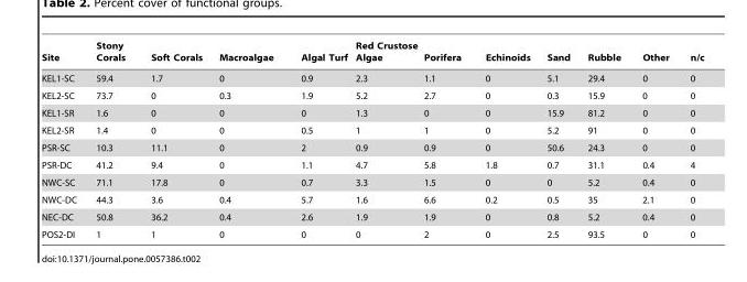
<table><thead><tr><td>Site</td><td>Stony Corals</td><td>Soft Corals</td><td>Macroalgae</td><td>Algal Turf</td><td>Red Crustose Algae</td><td>Porifera</td><td>Echinoids</td><td>Sand</td><td>Rubble</td><td>Other</td><td>n/c</td></tr></thead><tbody><tr><td>KEL1-SC</td><td>59.4</td><td>1.7</td><td>0</td><td>0.9</td><td>2.3</td><td>1.1</td><td>0</td><td>5.1</td><td>29.4</td><td>0</td><td>0</td></tr><tr><td>KEL2-SC</td><td>73.7</td><td>0</td><td>0.3</td><td>1.9</td><td>5.2</td><td>2.7</td><td>0</td><td>0.3</td><td>15.9</td><td>0</td><td>0</td></tr><tr><td>KEL1-SR</td><td>1.6</td><td>0</td><td>0</td><td>0</td><td>1.3</td><td>0</td><td>0</td><td>15.9</td><td>81.2</td><td>0</td><td>0</td></tr><tr><td>KEL2-SR</td><td>1.4</td><td>0</td><td>0</td><td>0.5</td><td>1</td><td>1</td><td>0</td><td>5.2</td><td>91</td><td>0</td><td>0</td></tr><tr><td>PSR-SC</td><td>10.3</td><td>11.1</td><td>0</td><td>2</td><td>0.9</td><td>0.9</td><td>0</td><td>50.6</td><td>24.3</td><td>0</td><td>0</td></tr><tr><td>PSR-DC</td><td>41.2</td><td>9.4</td><td>0</td><td>1.1</td><td>4.7</td><td>5.8</td><td>1.8</td><td>0.7</td><td>31.1</td><td>0.4</td><td>4</td></tr><tr><td>NWC-SC</td><td>71.1</td><td>17.8</td><td>0</td><td>0.7</td><td>3.3</td><td>1.5</td><td>0</td><td>0</td><td>5.2</td><td>0.4</td><td>0</td></tr><tr><td>NWC-DC</td><td>44.3</td><td>3.6</td><td>0.4</td><td>5.7</td><td>1.6</td><td>6.6</td><td>0.2</td><td>0.5</td><td>35</td><td>2.1</td><td>0</td></tr><tr><td>NEC-DC</td><td>50.8</td><td>36.2</td><td>0.4</td><td>2.6</td><td>1.9</td><td>1.9</td><td>0</td><td>0.8</td><td>5.2</td><td>0.4</td><td>0</td></tr><tr><td>POS2-DI</td><td>1</td><td>1</td><td>0</td><td>0</td><td>0</td><td>2</td><td>0</td><td>2.5</td><td>93.5</td><td>0</td><td>0</td></tr></tbody></table>